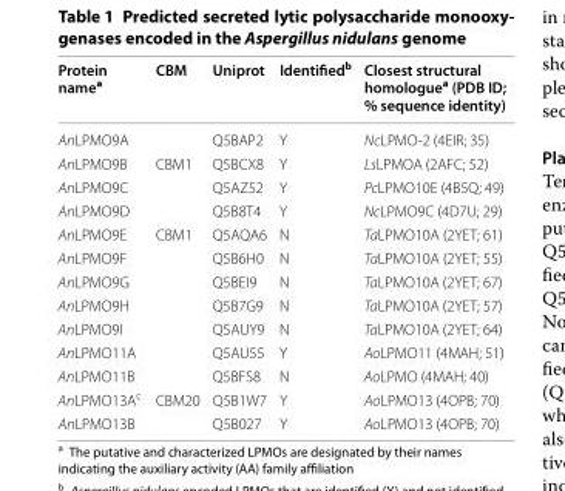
<table><thead><tr><td>Protein name<sup>a</sup></td><td>CBM</td><td>Uniprot</td><td>Identified<sup>b</sup></td><td>Closest structural homologue<sup>a</sup> (PDB ID; % sequence identity)</td></tr></thead><tbody><tr><td>AnLPMO9A</td><td></td><td>Q5BAP2</td><td>Y</td><td>NcLPMO‑2 (4EIR; 35)</td></tr><tr><td>AnLPMO9B</td><td>CBM1</td><td>Q5BCX8</td><td>Y</td><td>LsLPMOA (2AFC; 52)</td></tr><tr><td>AnLPMO9C</td><td></td><td>Q5AZ52</td><td>Y</td><td>PcLPMO10E (4B5Q; 49)</td></tr><tr><td>AnLPMO9D</td><td></td><td>Q5B8T4</td><td>Y</td><td>NcLPMO9C (4D7U; 29)</td></tr><tr><td>AnLPMO9E</td><td>CBM1</td><td>Q5AQA6</td><td>N</td><td>TaLPMO10A (2YET; 61)</td></tr><tr><td>AnLPMO9F</td><td></td><td>Q5B6H0</td><td>N</td><td>TaLPMO10A (2YET; 55)</td></tr><tr><td>AnLPMO9G</td><td></td><td>Q5BEI9</td><td>N</td><td>TaLPMO10A (2YET; 67)</td></tr><tr><td>AnLPMO9H</td><td></td><td>Q5B7G9</td><td>N</td><td>TaLPMO10A (2YET; 57)</td></tr><tr><td>AnLPMO9I</td><td></td><td>Q5AUY9</td><td>N</td><td>TaLPMO10A (2YET; 64)</td></tr><tr><td>AnLPMO11A</td><td></td><td>Q5AU55</td><td>Y</td><td>AoLPMO11 (4MAH; 51)</td></tr><tr><td>AnLPMO11B</td><td></td><td>Q5BFS8</td><td>N</td><td>AoLPMO (4MAH; 40)</td></tr><tr><td>AnLPMO13A<sup>c</sup></td><td>CBM20</td><td>Q5B1W7</td><td>Y</td><td>AoLPMO13 (4OPB; 70)</td></tr><tr><td>AnLPMO13B</td><td></td><td>Q5B027</td><td>Y</td><td>AoLPMO13 (4OPB; 70)</td></tr></tbody></table>